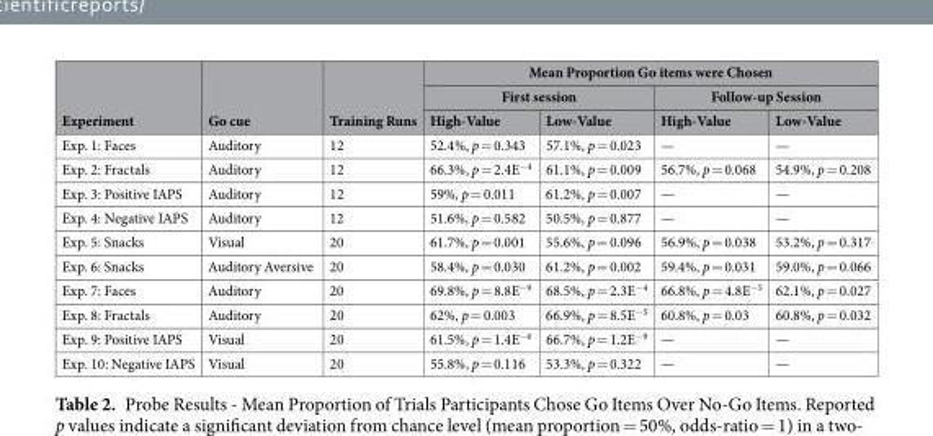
<table><thead><tr><td rowspan="3">Experiment</td><td rowspan="3">Go cue</td><td rowspan="3">Training Runs</td><td colspan="4">Mean Proportion Go items were Chosen</td></tr><tr><td colspan="2">First session</td><td colspan="2">Follow-up Session</td></tr><tr><td>High-Value</td><td>Low-Value</td><td>High-Value</td><td>Low-Value</td></tr></thead><tbody><tr><td>Exp. 1: Faces</td><td>Auditory</td><td>12</td><td>52.4%, p = 0.343</td><td>57.1%, p = 0.023</td><td>—</td><td>—</td></tr><tr><td>Exp. 2: Fractals</td><td>Auditory</td><td>12</td><td>66.3%, p = 2.4E<sup>−4</sup></td><td>61.1%, p = 0.009</td><td>56.7%, p = 0.068</td><td>54.9%, p = 0.208</td></tr><tr><td>Exp. 3: Positive IAPS</td><td>Auditory</td><td>12</td><td>59%, p = 0.011</td><td>61.2%, p = 0.007</td><td>—</td><td>—</td></tr><tr><td>Exp. 4: Negative IAPS</td><td>Auditory</td><td>12</td><td>51.6%, p = 0.582</td><td>50.5%, p = 0.877</td><td>—</td><td>—</td></tr><tr><td>Exp. 5: Snacks</td><td>Visual</td><td>20</td><td>61.7%, p = 0.001</td><td>55.6%, p = 0.096</td><td>56.9%, p = 0.038</td><td>53.2%, p = 0.317</td></tr><tr><td>Exp. 6: Snacks</td><td>Auditory Aversive</td><td>20</td><td>58.4%, p = 0.030</td><td>61.2%, p = 0.002</td><td>59.4%, p = 0.031</td><td>59.0%, p = 0.066</td></tr><tr><td>Exp. 7: Faces</td><td>Auditory</td><td>20</td><td>69.8%, p = 8.8E<sup>−9</sup></td><td>68.5%, p = 2.3E<sup>−4</sup></td><td>66.8%, p = 4.8E<sup>−5</sup></td><td>62.1%, p = 0.027</td></tr><tr><td>Exp. 8: Fractals</td><td>Auditory</td><td>20</td><td>62%, p = 0.003</td><td>66.9%, p = 8.5E<sup>−5</sup></td><td>60.8%, p = 0.03</td><td>60.8%, p = 0.032</td></tr><tr><td>Exp. 9: Positive IAPS</td><td>Visual</td><td>20</td><td>61.5%, p = 1.4E<sup>−6</sup></td><td>66.7%, p = 1.2E<sup>−9</sup></td><td>—</td><td>—</td></tr><tr><td>Exp. 10: Negative IAPS</td><td>Visual</td><td>20</td><td>55.8%, p = 0.116</td><td>53.3%, p = 0.322</td><td>—</td><td>—</td></tr></tbody></table>